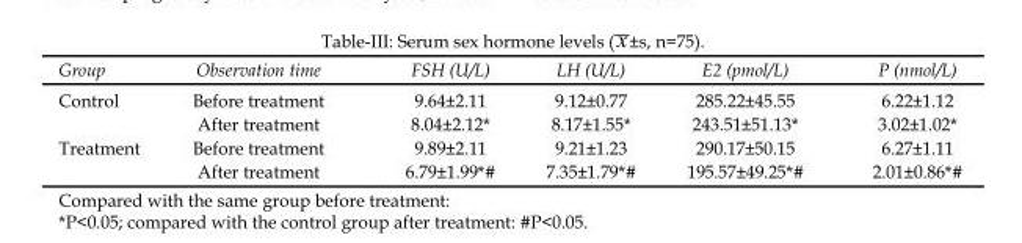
<table><thead><tr><td>Group</td><td>Observation time</td><td>FSH (U/L)</td><td>LH (U/L)</td><td>E<sub>2</sub> (pmol/L)</td><td>P (nmol/L)</td></tr></thead><tbody><tr><td rowspan="2">Control</td><td>Before treatment</td><td>9.64±2.11</td><td>9.12±0.77</td><td>285.22±45.55</td><td>6.22±1.12</td></tr><tr><td>After treatment</td><td>8.04±2.12*</td><td>8.17±1.55*</td><td>243.51±51.13*</td><td>3.02±1.02*</td></tr><tr><td rowspan="2">Treatment</td><td>Before treatment</td><td>9.89±2.11</td><td>9.21±1.23</td><td>290.17±50.15</td><td>6.27±1.11</td></tr><tr><td>After treatment</td><td>6.79±1.99*#</td><td>7.35±1.79*#</td><td>195.57±49.25*#</td><td>2.01±0.86*#</td></tr></tbody></table>